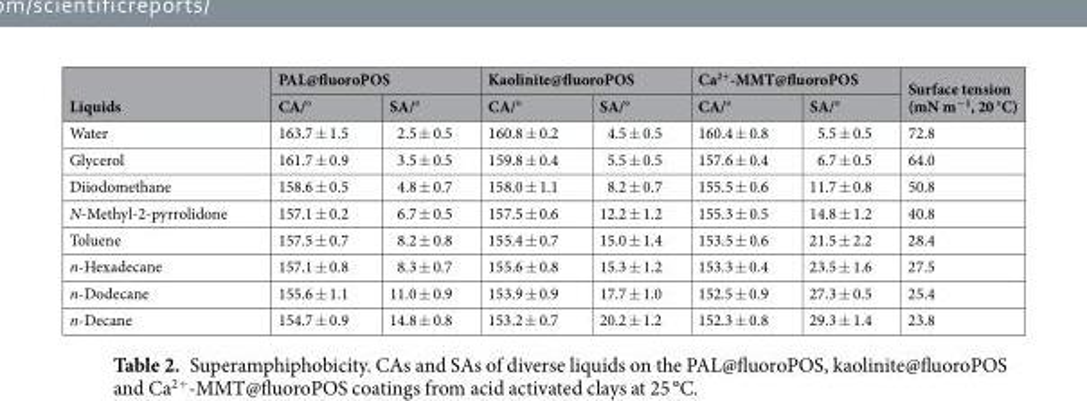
<table><thead><tr><td rowspan="2">Liquids</td><td colspan="2">PAL@fluoroPOS</td><td colspan="2">Kaolinite@fluoroPOS</td><td colspan="2">Ca<sup>2+</sup>-MMT@fluoroPOS</td><td rowspan="2">Surface tension (mN m<sup>−1</sup>, 20 °C)</td></tr><tr><td>CA/°</td><td>SA/°</td><td>CA/°</td><td>SA/°</td><td>CA/°</td><td>SA/°</td></tr></thead><tbody><tr><td>Water</td><td>163.7 ± 1.5</td><td>2.5 ± 0.5</td><td>160.8 ± 0.2</td><td>4.5 ± 0.5</td><td>160.4 ± 0.8</td><td>5.5 ± 0.5</td><td>72.8</td></tr><tr><td>Glycerol</td><td>161.7 ± 0.9</td><td>3.5 ± 0.5</td><td>159.8 ± 0.4</td><td>5.5 ± 0.5</td><td>157.6 ± 0.4</td><td>6.7 ± 0.5</td><td>64.0</td></tr><tr><td>Diiodomethane</td><td>158.6 ± 0.5</td><td>4.8 ± 0.7</td><td>158.0 ± 1.1</td><td>8.2 ± 0.7</td><td>155.5 ± 0.6</td><td>11.7 ± 0.8</td><td>50.8</td></tr><tr><td>N-Methyl-2-pyrrolidone</td><td>157.1 ± 0.2</td><td>6.7 ± 0.5</td><td>157.5 ± 0.6</td><td>12.2 ± 1.2</td><td>155.3 ± 0.5</td><td>14.8 ± 1.2</td><td>40.8</td></tr><tr><td>Toluene</td><td>157.5 ± 0.7</td><td>8.2 ± 0.8</td><td>155.4 ± 0.7</td><td>15.0 ± 1.4</td><td>153.5 ± 0.6</td><td>21.5 ± 2.2</td><td>28.4</td></tr><tr><td>n-Hexadecane</td><td>157.1 ± 0.8</td><td>8.3 ± 0.7</td><td>155.6 ± 0.8</td><td>15.3 ± 1.2</td><td>153.3 ± 0.4</td><td>23.5 ± 1.6</td><td>27.5</td></tr><tr><td>n-Dodecane</td><td>155.6 ± 1.1</td><td>11.0 ± 0.9</td><td>153.9 ± 0.9</td><td>17.7 ± 1.0</td><td>152.5 ± 0.9</td><td>27.3 ± 0.5</td><td>25.4</td></tr><tr><td>n-Decane</td><td>154.7 ± 0.9</td><td>14.8 ± 0.8</td><td>153.2 ± 0.7</td><td>20.2 ± 1.2</td><td>152.3 ± 0.8</td><td>29.3 ± 1.4</td><td>23.8</td></tr></tbody></table>